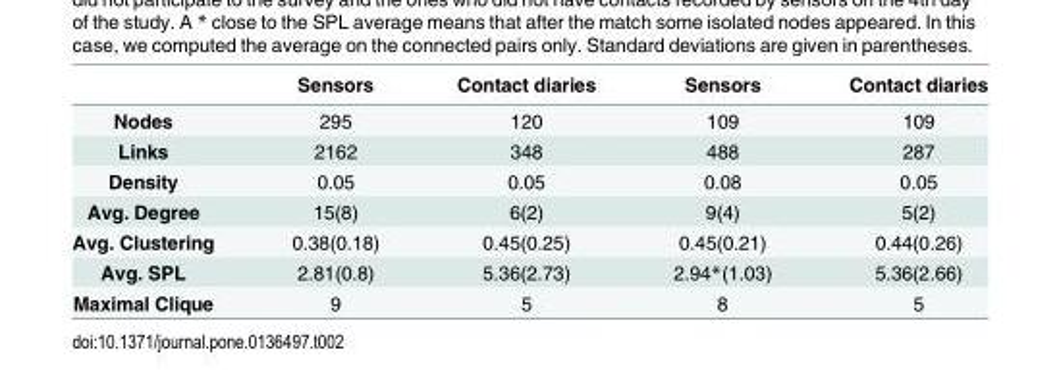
<table><thead><tr><td></td><td>Sensors</td><td>Contact diaries</td><td>Sensors</td><td>Contact diaries</td></tr></thead><tbody><tr><td>Nodes</td><td>295</td><td>120</td><td>109</td><td>109</td></tr><tr><td>Links</td><td>2162</td><td>348</td><td>488</td><td>287</td></tr><tr><td>Density</td><td>0.05</td><td>0.05</td><td>0.08</td><td>0.05</td></tr><tr><td>Avg. Degree</td><td>15(8)</td><td>6(2)</td><td>9(4)</td><td>5(2)</td></tr><tr><td>Avg. Clustering</td><td>0.38(0.18)</td><td>0.45(0.25)</td><td>0.45(0.21)</td><td>0.44(0.26)</td></tr><tr><td>Avg. SPL</td><td>2.81(0.8)</td><td>5.36(2.73)</td><td>2.94*(1.03)</td><td>5.36(2.66)</td></tr><tr><td>Maximal Clique</td><td>9</td><td>5</td><td>8</td><td>5</td></tr></tbody></table>